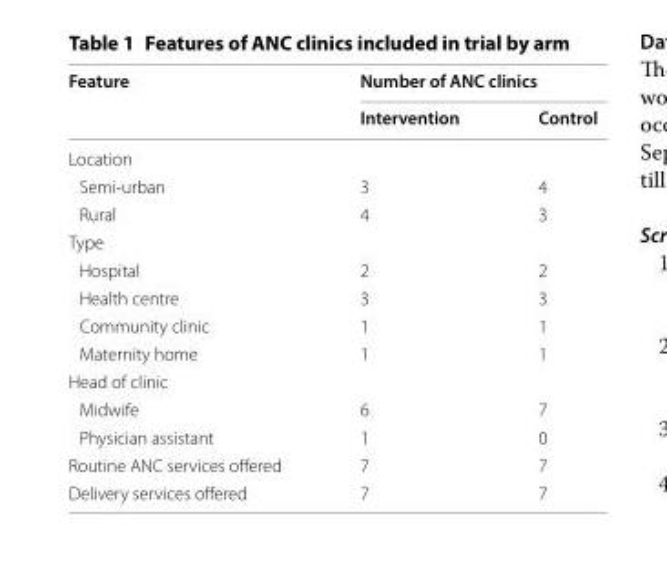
<table><thead><tr><td rowspan="2">Feature</td><td colspan="2">Number of ANC clinics</td></tr><tr><td>Intervention</td><td>Control</td></tr></thead><tbody><tr><td colspan="3">Location</td></tr><tr><td>Semi-urban</td><td>3</td><td>4</td></tr><tr><td>Rural</td><td>4</td><td>3</td></tr><tr><td colspan="3">Type</td></tr><tr><td>Hospital</td><td>2</td><td>2</td></tr><tr><td>Health centre</td><td>3</td><td>3</td></tr><tr><td>Community clinic</td><td>1</td><td>1</td></tr><tr><td>Maternity home</td><td>1</td><td>1</td></tr><tr><td colspan="3">Head of clinic</td></tr><tr><td>Midwife</td><td>6</td><td>7</td></tr><tr><td>Physician assistant</td><td>1</td><td>0</td></tr><tr><td>Routine ANC services offered</td><td>7</td><td>7</td></tr><tr><td>Delivery services offered</td><td>7</td><td>7</td></tr></tbody></table>